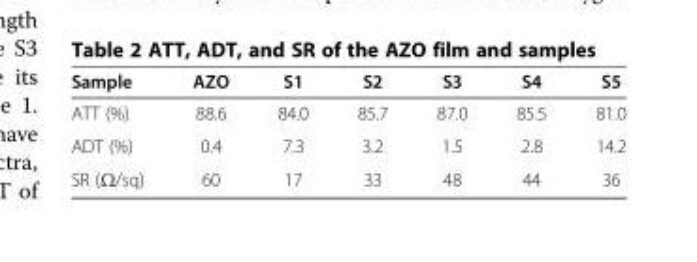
<table><thead><tr><td>Sample</td><td>AZO</td><td>S1</td><td>S2</td><td>S3</td><td>S4</td><td>S5</td></tr></thead><tbody><tr><td>ATT (%)</td><td>88.6</td><td>84.0</td><td>85.7</td><td>87.0</td><td>85.5</td><td>81.0</td></tr><tr><td>ADT (%)</td><td>0.4</td><td>7.3</td><td>3.2</td><td>1.5</td><td>2.8</td><td>14.2</td></tr><tr><td>SR (Ω/sq)</td><td>60</td><td>17</td><td>33</td><td>48</td><td>44</td><td>36</td></tr></tbody></table>